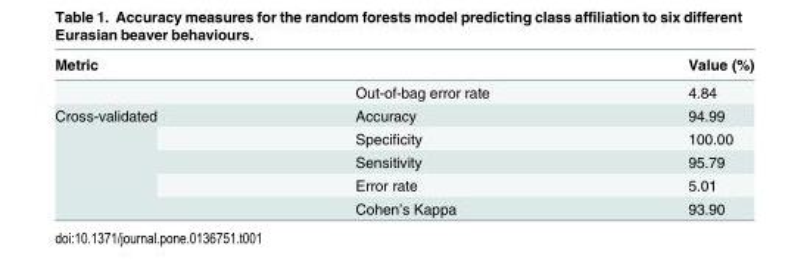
<table><thead><tr><td colspan="2">Metric</td><td rowspan="2">Value (%) 4.84</td></tr><tr><td></td><td>Out-of-bag error rate</td></tr></thead><tbody><tr><td rowspan="5">Cross-validated</td><td>Accuracy</td><td>94.99</td></tr><tr><td>Specificity</td><td>100.00</td></tr><tr><td>Sensitivity</td><td>95.79</td></tr><tr><td>Error rate</td><td>5.01</td></tr><tr><td>Cohen’s Kappa</td><td>93.90</td></tr></tbody></table>